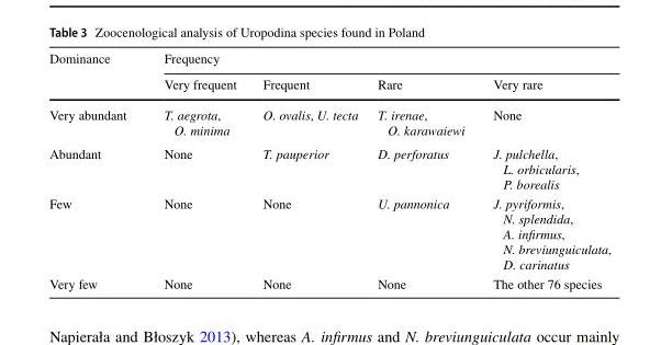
<table><thead><tr><td rowspan="2">Dominance</td><td colspan="4">Frequency</td></tr><tr><td>Very frequent</td><td>Frequent</td><td>Rare</td><td>Very rare</td></tr></thead><tbody><tr><td>Very abundant</td><td>T. aegrota, O. minima</td><td>O. ovalis, U. tecta</td><td>T. irenae, O. karawaiewi</td><td>None</td></tr><tr><td>Abundant</td><td>None</td><td>T. pauperior</td><td>D. perforatus</td><td>J. pulchella, L. orbicularis, P. borealis</td></tr><tr><td>Few</td><td>None</td><td>None</td><td>U. pannonica</td><td>J. pyriformis, N. splendida, A. infirmus, N. breviunguiculata, D. carinatus</td></tr><tr><td>Very few</td><td>None</td><td>None</td><td>None</td><td>The other 76 species</td></tr></tbody></table>